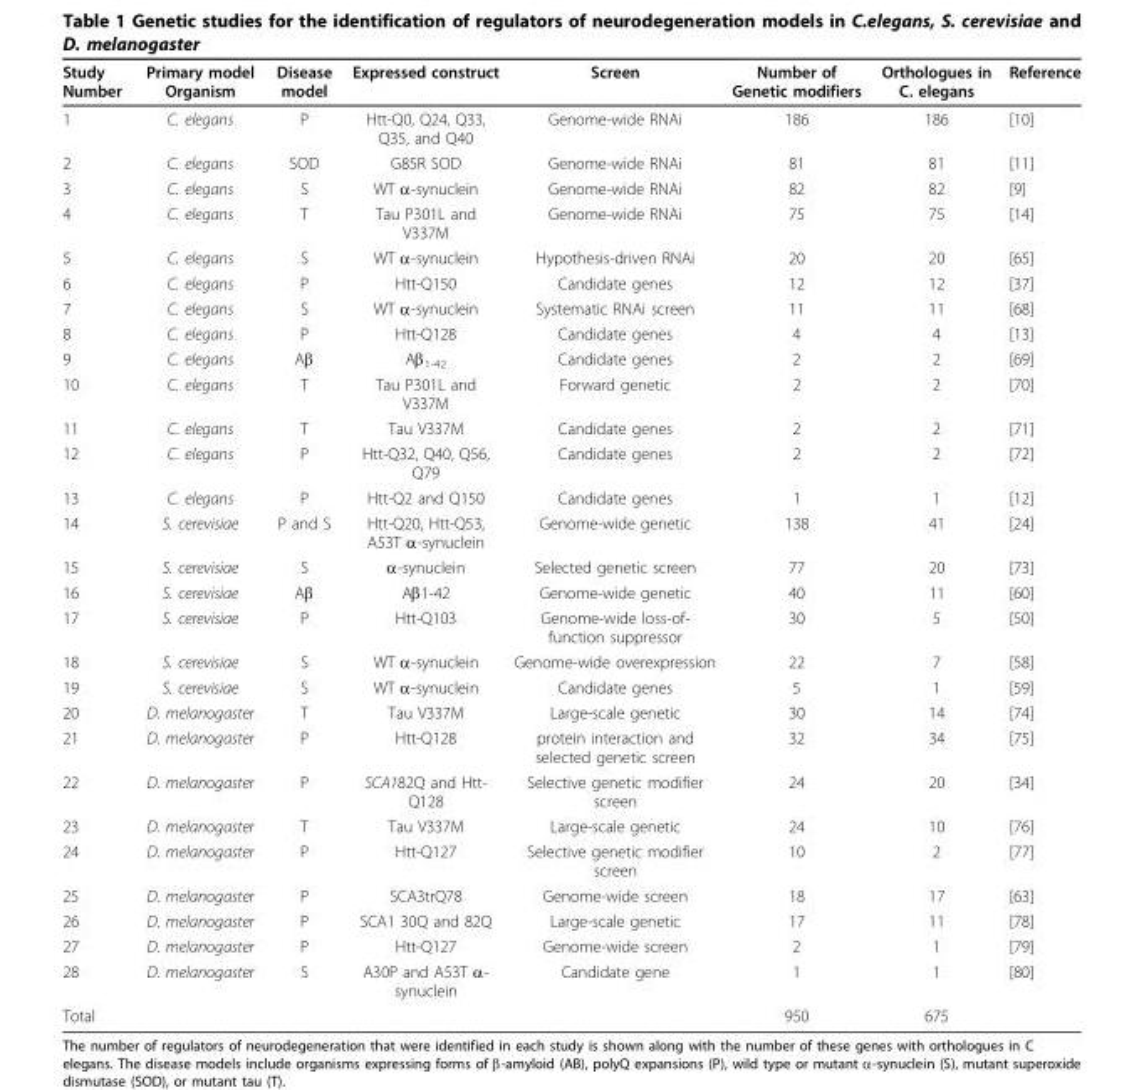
<table><thead><tr><td>Study Number</td><td>Primary model Organism</td><td>Disease model</td><td>Expressed construct</td><td>Screen</td><td>Number of Genetic modifiers</td><td>Orthologues in C. elegans</td><td>Reference</td></tr></thead><tbody><tr><td>1</td><td>C. elegans</td><td>P</td><td>Htt-Q0, Q24, Q33, Q35, and Q40</td><td>Genome-wide RNAi</td><td>186</td><td>186</td><td>[10]</td></tr><tr><td>2</td><td>C. elegans</td><td>SOD</td><td>G85R SOD</td><td>Genome-wide RNAi</td><td>81</td><td>81</td><td>[11]</td></tr><tr><td>3</td><td>C. elegans</td><td>S</td><td>WT α-synuclein</td><td>Genome-wide RNAi</td><td>82</td><td>82</td><td>[9]</td></tr><tr><td>4</td><td>C. elegans</td><td>T</td><td>Tau P301L and V337M</td><td>Genome-wide RNAi</td><td>75</td><td>75</td><td>[14]</td></tr><tr><td>5</td><td>C. elegans</td><td>S</td><td>WT α-synuclein</td><td>Hypothesis-driven RNAi</td><td>20</td><td>20</td><td>[65]</td></tr><tr><td>6</td><td>C. elegans</td><td>P</td><td>Htt-Q150</td><td>Candidate genes</td><td>12</td><td>12</td><td>[37]</td></tr><tr><td>7</td><td>C. elegans</td><td>S</td><td>WT α-synuclein</td><td>Systematic RNAi screen</td><td>11</td><td>11</td><td>[68]</td></tr><tr><td>8</td><td>C. elegans</td><td>P</td><td>Htt-Q128</td><td>Candidate genes</td><td>4</td><td>4</td><td>[13]</td></tr><tr><td>9</td><td>C. elegans</td><td>Aβ</td><td>Aβ<sub>1-42</sub></td><td>Candidate genes</td><td>2</td><td>2</td><td>[69]</td></tr><tr><td>10</td><td>C. elegans</td><td>T</td><td>Tau P301L and V337M</td><td>Forward genetic</td><td>2</td><td>2</td><td>[70]</td></tr><tr><td>11</td><td>C. elegans</td><td>T</td><td>Tau V337M</td><td>Candidate genes</td><td>2</td><td>2</td><td>[71]</td></tr><tr><td>12</td><td>C. elegans</td><td>P</td><td>Htt-Q32, Q40, Q56, Q79</td><td>Candidate genes</td><td>2</td><td>2</td><td>[72]</td></tr><tr><td>13</td><td>C. elegans</td><td>P</td><td>Htt-Q2 and Q150</td><td>Candidate genes</td><td>1</td><td>1</td><td>[12]</td></tr><tr><td>14</td><td>S. cerevisiae</td><td>P and S</td><td>Htt-Q20, Htt-Q53, A53T α-synuclein</td><td>Genome-wide genetic</td><td>138</td><td>41</td><td>[24]</td></tr><tr><td>15</td><td>S. cerevisiae</td><td>S</td><td>α-synuclein</td><td>Selected genetic screen</td><td>77</td><td>20</td><td>[73]</td></tr><tr><td>16</td><td>S. cerevisiae</td><td>Aβ</td><td>Aβ1-42</td><td>Genome-wide genetic</td><td>40</td><td>11</td><td>[60]</td></tr><tr><td>17</td><td>S. cerevisiae</td><td>P</td><td>Htt-Q103</td><td>Genome-wide loss-of- function suppressor</td><td>30</td><td>5</td><td>[50]</td></tr><tr><td>18</td><td>S. cerevisiae</td><td>S</td><td>WT α-synuclein</td><td>Genome-wide overexpression</td><td>22</td><td>7</td><td>[58]</td></tr><tr><td>19</td><td>S. cerevisiae</td><td>S</td><td>WT α-synuclein</td><td>Candidate genes</td><td>5</td><td>1</td><td>[59]</td></tr><tr><td>20</td><td>D. melanogaster</td><td>T</td><td>Tau V337M</td><td>Large-scale genetic</td><td>30</td><td>14</td><td>[74]</td></tr><tr><td>21</td><td>D. melanogaster</td><td>P</td><td>Htt-Q128</td><td>protein interaction and selected genetic screen</td><td>32</td><td>34</td><td>[75]</td></tr><tr><td>22</td><td>D. melanogaster</td><td>P</td><td>SCA182Q and Htt- Q128</td><td>Selective genetic modifier screen</td><td>24</td><td>20</td><td>[34]</td></tr><tr><td>23</td><td>D. melanogaster</td><td>T</td><td>Tau V337M</td><td>Large-scale genetic</td><td>24</td><td>10</td><td>[76]</td></tr><tr><td>24</td><td>D. melanogaster</td><td>P</td><td>Htt-Q127</td><td>Selective genetic modifier screen</td><td>10</td><td>2</td><td>[77]</td></tr><tr><td>25</td><td>D. melanogaster</td><td>P</td><td>SCA3trQ78</td><td>Genome-wide screen</td><td>18</td><td>17</td><td>[63]</td></tr><tr><td>26</td><td>D. melanogaster</td><td>P</td><td>SCA1 30Q and 82Q</td><td>Large-scale genetic</td><td>17</td><td>11</td><td>[78]</td></tr><tr><td>27</td><td>D. melanogaster</td><td>P</td><td>Htt-Q127</td><td>Genome-wide screen</td><td>2</td><td>1</td><td>[79]</td></tr><tr><td>28</td><td>D. melanogaster</td><td>S</td><td>A30P and A53T α- synuclein</td><td>Candidate gene</td><td>1</td><td>1</td><td>[80]</td></tr><tr><td>Total</td><td></td><td></td><td></td><td></td><td>950</td><td>675</td><td></td></tr></tbody></table>